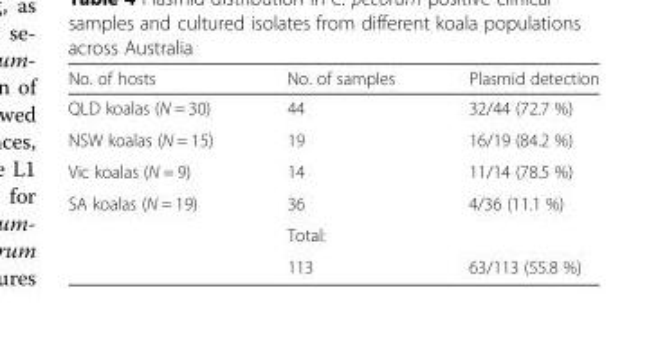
<table><thead><tr><td>No. of hosts</td><td>No. of samples</td><td>Plasmid detection</td></tr></thead><tbody><tr><td>QLD koalas (N = 30)</td><td>44</td><td>32/44 (72.7 %)</td></tr><tr><td>NSW koalas (N = 15)</td><td>19</td><td>16/19 (84.2 %)</td></tr><tr><td>Vic koalas (N = 9)</td><td>14</td><td>11/14 (78.5 %)</td></tr><tr><td rowspan="3">SA koalas (N = 19)</td><td>36</td><td>4/36 (11.1 %)</td></tr><tr><td>Total:</td><td></td></tr><tr><td>113</td><td>63/113 (55.8 %)</td></tr></tbody></table>